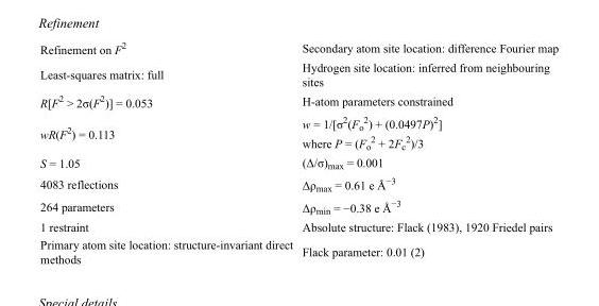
<table><tbody><tr><td>Refinement on F<sup>2</sup></td><td>Secondary atom site location: difference Fourier map</td></tr><tr><td>Least-squares matrix: full</td><td>Hydrogen site location: inferred from neighbouring sites</td></tr><tr><td>R[F<sup>2</sup> &gt; 2σ(F<sup>2</sup>)] = 0.053</td><td>H-atom parameters constrained</td></tr><tr><td>wR(F<sup>2</sup>) = 0.113</td><td>w = 1/[σ<sup>2</sup>(F<sub>o</sub> <sup>2</sup>) + (0.0497P)<sup>2</sup>] where P = (F<sub>o</sub> <sup>2</sup> + 2F<sub>c</sub> <sup>2</sup>)/3</td></tr><tr><td>S = 1.05</td><td>(Δ/σ)<sub>max</sub> = 0.001</td></tr><tr><td>4083 reflections</td><td>Δρ<sub>max</sub> = 0.61 e Å<sup>−3</sup></td></tr><tr><td>264 parameters</td><td>Δρ<sub>min</sub> = −0.38 e Å<sup>−3</sup></td></tr><tr><td>1 restraint</td><td>Absolute structure: Flack (1983), 1920 Friedel pairs</td></tr><tr><td>Primary atom site location: structure-invariant direct methods</td><td>Flack parameter: 0.01 (2)</td></tr></tbody></table>